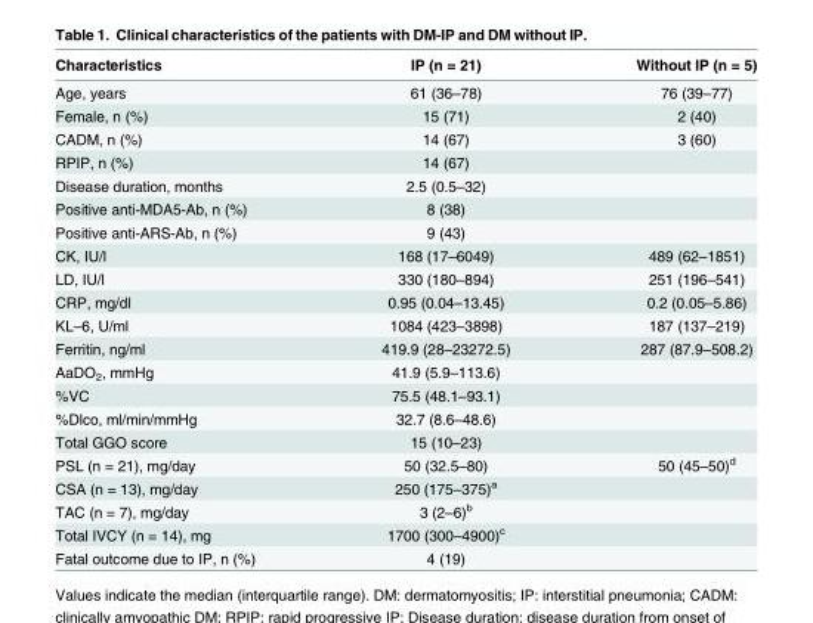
<table><thead><tr><td>Characteristics</td><td>IP (n = 21)</td><td>Without IP (n = 5)</td></tr></thead><tbody><tr><td>Age, years</td><td>61 (36–78)</td><td>76 (39–77)</td></tr><tr><td>Female, n (%)</td><td>15 (71)</td><td>2 (40)</td></tr><tr><td>CADM, n (%)</td><td>14 (67)</td><td>3 (60)</td></tr><tr><td>RPIP, n (%)</td><td>14 (67)</td><td></td></tr><tr><td>Disease duration, months</td><td>2.5 (0.5–32)</td><td></td></tr><tr><td>Positive anti-MDA5-Ab, n (%)</td><td>8 (38)</td><td></td></tr><tr><td>Positive anti-ARS-Ab, n (%)</td><td>9 (43)</td><td></td></tr><tr><td>CK, IU/l</td><td>168 (17–6049)</td><td>489 (62–1851)</td></tr><tr><td>LD, IU/l</td><td>330 (180–894)</td><td>251 (196–541)</td></tr><tr><td>CRP, mg/dl</td><td>0.95 (0.04–13.45)</td><td>0.2 (0.05–5.86)</td></tr><tr><td>KL–6, U/ml</td><td>1084 (423–3898)</td><td>187 (137–219)</td></tr><tr><td>Ferritin, ng/ml</td><td>419.9 (28–23272.5)</td><td>287 (87.9–508.2)</td></tr><tr><td>AaDO<sub>2</sub>, mmHg</td><td>41.9 (5.9–113.6)</td><td></td></tr><tr><td>%VC</td><td>75.5 (48.1–93.1)</td><td></td></tr><tr><td>%Dlco, ml/min/mmHg</td><td>32.7 (8.6–48.6)</td><td></td></tr><tr><td>Total GGO score</td><td>15 (10–23)</td><td></td></tr><tr><td>PSL (n = 21), mg/day</td><td>50 (32.5–80)</td><td>50 (45–50)<sup>d</sup></td></tr><tr><td>CSA (n = 13), mg/day</td><td>250 (175–375)<sup>a</sup></td><td></td></tr><tr><td>TAC (n = 7), mg/day</td><td>3 (2–6)<sup>b</sup></td><td></td></tr><tr><td>Total IVCY (n = 14), mg</td><td>1700 (300–4900)<sup>c</sup></td><td></td></tr><tr><td>Fatal outcome due to IP, n (%)</td><td>4 (19)</td><td></td></tr></tbody></table>